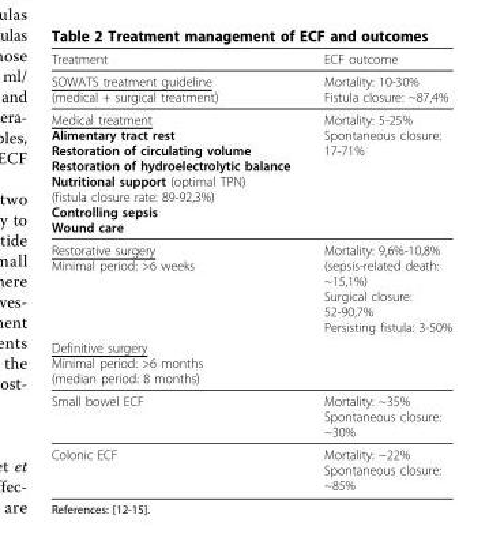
<table><thead><tr><td>Treatment</td><td>ECF outcome</td></tr></thead><tbody><tr><td>SOWATS treatment guideline (medical + surgical treatment)</td><td>Mortality: 10-30% Fistula closure: ~87,4%</td></tr><tr><td>Medical treatment Alimentary tract rest Restoration of circulating volume Restoration of hydroelectrolytic balance Nutritional support (optimal TPN) (fistula closure rate: 89-92,3%) Controlling sepsis Wound care</td><td>Mortality: 5-25% Spontaneous closure: 17-71%</td></tr><tr><td>Restorative surgery Minimal period: &gt;6 weeks</td><td>Mortality: 9,6%-10,8% (sepsis-related death: ~15,1%) Surgical closure: 52-90,7% Persisting fistula: 3-50%</td></tr><tr><td colspan="2">Definitive surgery Minimal period: &gt;6 months (median period: 8 months)</td></tr><tr><td>Small bowel ECF</td><td>Mortality: ~35% Spontaneous closure: ~30%</td></tr><tr><td>Colonic ECF</td><td>Mortality: ~22% Spontaneous closure: ~85%</td></tr></tbody></table>